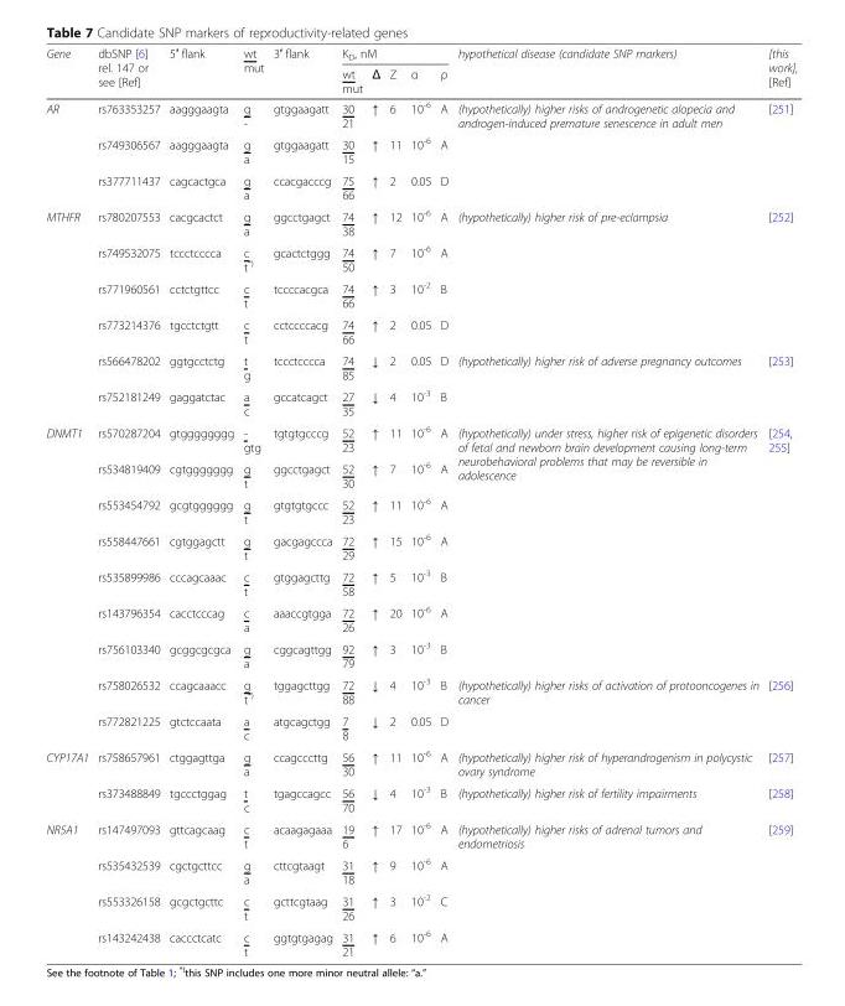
<table><thead><tr><td rowspan="2">Gene</td><td rowspan="2">dbSNP [6] rel. 147 or see [Ref]</td><td rowspan="2">5′ flank</td><td rowspan="2">wt mut</td><td rowspan="2">3′ flank</td><td colspan="5">K<sub>D</sub>, nM</td><td rowspan="2">hypothetical disease (candidate SNP markers)</td><td rowspan="2">[this work], [Ref]</td></tr><tr><td>wt mut</td><td>Δ</td><td>Z</td><td>α</td><td>ρ</td></tr></thead><tbody><tr><td rowspan="3">AR</td><td>rs763353257</td><td>aagggaagta</td><td>g -</td><td>gtggaagatt</td><td>30 21</td><td>↑</td><td>6</td><td>10<sup>-6</sup></td><td>A</td><td rowspan="3">(hypothetically) higher risks of androgenetic alopecia and androgen-induced premature senescence in adult men</td><td rowspan="3">[251]</td></tr><tr><td>rs749306567</td><td>aagggaagta</td><td>g a</td><td>gtggaagatt</td><td>30 15</td><td>↑</td><td>11</td><td>10<sup>-6</sup></td><td>A</td></tr><tr><td>rs377711437</td><td>cagcactgca</td><td>g a</td><td>ccacgacccg</td><td>75 66</td><td>↑</td><td>2</td><td>0.05</td><td>D</td></tr><tr><td rowspan="6">MTHFR</td><td>rs780207553</td><td>cacgcactct</td><td>g a</td><td>ggcctgagct</td><td>74 38</td><td>↑</td><td>12</td><td>10<sup>-6</sup></td><td>A</td><td rowspan="4">(hypothetically) higher risk of pre-eclampsia</td><td rowspan="4">[252]</td></tr><tr><td>rs749532075</td><td>tccctcccca</td><td>c t<sup>*)</sup></td><td>gcactctggg</td><td>74 50</td><td>↑</td><td>7</td><td>10<sup>-6</sup></td><td>A</td></tr><tr><td>rs771960561</td><td>cctctgttcc</td><td>c t</td><td>tccccacgca</td><td>74 66</td><td>↑</td><td>3</td><td>10<sup>-2</sup></td><td>B</td></tr><tr><td>rs773214376</td><td>tgcctctgtt</td><td>c t</td><td>cctccccacg</td><td>74 66</td><td>↑</td><td>2</td><td>0.05</td><td>D</td></tr><tr><td>rs566478202</td><td>ggtgcctctg</td><td>t g</td><td>tccctcccca</td><td>74 85</td><td>↓</td><td>2</td><td>0.05</td><td>D</td><td rowspan="2">(hypothetically) higher risk of adverse pregnancy outcomes</td><td rowspan="2">[253]</td></tr><tr><td>rs752181249</td><td>gaggatctac</td><td>a c</td><td>gccatcagct</td><td>27 35</td><td>↓</td><td>4</td><td>10<sup>-3</sup></td><td>B</td></tr><tr><td rowspan="9">DNMT1</td><td>rs570287204</td><td>gtgggggggg</td><td>- gtg</td><td>tgtgtgcccg</td><td>52 23</td><td>↑</td><td>11</td><td>10<sup>-6</sup></td><td>A</td><td rowspan="7">(hypothetically) under stress, higher risk of epigenetic disorders of fetal and newborn brain development causing long-term neurobehavioral problems that may be reversible in adolescence</td><td rowspan="7">[254, 255]</td></tr><tr><td>rs534819409</td><td>cgtggggggg</td><td>g t</td><td>ggcctgagct</td><td>52 30</td><td>↑</td><td>7</td><td>10<sup>-6</sup></td><td>A</td></tr><tr><td>rs553454792</td><td>gcgtgggggg</td><td>g t</td><td>gtgtgtgccc</td><td>52 23</td><td>↑</td><td>11</td><td>10<sup>-6</sup></td><td>A</td></tr><tr><td>rs558447661</td><td>cgtggagctt</td><td>g t</td><td>gacgagccca</td><td>72 29</td><td>↑</td><td>15</td><td>10<sup>-6</sup></td><td>A</td></tr><tr><td>rs535899986</td><td>cccagcaaac</td><td>c t</td><td>gtggagcttg</td><td>72 58</td><td>↑</td><td>5</td><td>10<sup>-3</sup></td><td>B</td></tr><tr><td>rs143796354</td><td>cacctcccag</td><td>c a</td><td>aaaccgtgga</td><td>72 26</td><td>↑</td><td>20</td><td>10<sup>-6</sup></td><td>A</td></tr><tr><td>rs756103340</td><td>gcggcgcgca</td><td>g a</td><td>cggcagttgg</td><td>92 79</td><td>↑</td><td>3</td><td>10<sup>-3</sup></td><td>B</td></tr><tr><td>rs758026532</td><td>ccagcaaacc</td><td>g t<sup>*)</sup></td><td>tggagcttgg</td><td>72 88</td><td>↓</td><td>4</td><td>10<sup>-3</sup></td><td>B</td><td rowspan="2">(hypothetically) higher risks of activation of protooncogenes in cancer</td><td rowspan="2">[256]</td></tr><tr><td>rs772821225</td><td>gtctccaata</td><td>a c</td><td>atgcagctgg</td><td>7 8</td><td>↓</td><td>2</td><td>0.05</td><td>D</td></tr><tr><td rowspan="2">CYP17A1</td><td>rs758657961</td><td>ctggagttga</td><td>g a</td><td>ccagcccttg</td><td>56 30</td><td>↑</td><td>11</td><td>10<sup>-6</sup></td><td>A</td><td>(hypothetically) higher risk of hyperandrogenism in polycystic ovary syndrome</td><td>[257]</td></tr><tr><td>rs373488849</td><td>tgccctggag</td><td>t c</td><td>tgagccagcc</td><td>56 70</td><td>↓</td><td>4</td><td>10<sup>-3</sup></td><td>B</td><td>(hypothetically) higher risk of fertility impairments</td><td>[258]</td></tr><tr><td rowspan="4">NR5A1</td><td>rs147497093</td><td>gttcagcaag</td><td>c t</td><td>acaagagaaa</td><td>19 6</td><td>↑</td><td>17</td><td>10<sup>-6</sup></td><td>A</td><td rowspan="4">(hypothetically) higher risks of adrenal tumors and endometriosis</td><td rowspan="4">[259]</td></tr><tr><td>rs535432539</td><td>cgctgcttcc</td><td>g a</td><td>cttcgtaagt</td><td>31 18</td><td>↑</td><td>9</td><td>10<sup>-6</sup></td><td>A</td></tr><tr><td>rs553326158</td><td>gcgctgcttc</td><td>c t</td><td>gcttcgtaag</td><td>31 26</td><td>↑</td><td>3</td><td>10<sup>-2</sup></td><td>C</td></tr><tr><td>rs143242438</td><td>caccctcatc</td><td>c t</td><td>ggtgtgagag</td><td>31 21</td><td>↑</td><td>6</td><td>10<sup>-6</sup></td><td>A</td></tr></tbody></table>